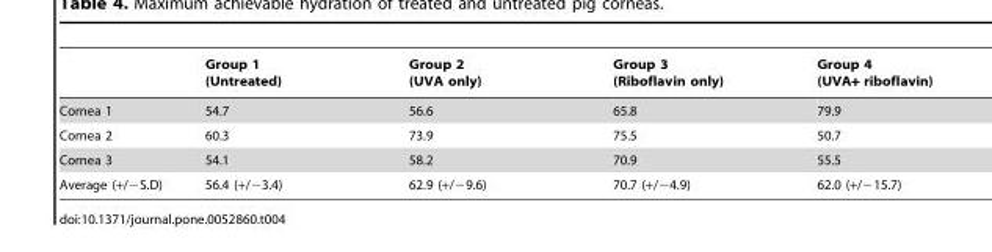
<table><thead><tr><td></td><td>Group 1 (Untreated)</td><td>Group 2 (UVA only)</td><td>Group 3 (Riboflavin only)</td><td>Group 4 (UVA+ riboflavin)</td></tr></thead><tbody><tr><td>Cornea 1</td><td>54.7</td><td>56.6</td><td>65.8</td><td>79.9</td></tr><tr><td>Cornea 2</td><td>60.3</td><td>73.9</td><td>75.5</td><td>50.7</td></tr><tr><td>Cornea 3</td><td>54.1</td><td>58.2</td><td>70.9</td><td>55.5</td></tr><tr><td>Average (+/−S.D)</td><td>56.4 (+/−3.4)</td><td>62.9 (+/−9.6)</td><td>70.7 (+/−4.9)</td><td>62.0 (+/−15.7)</td></tr></tbody></table>